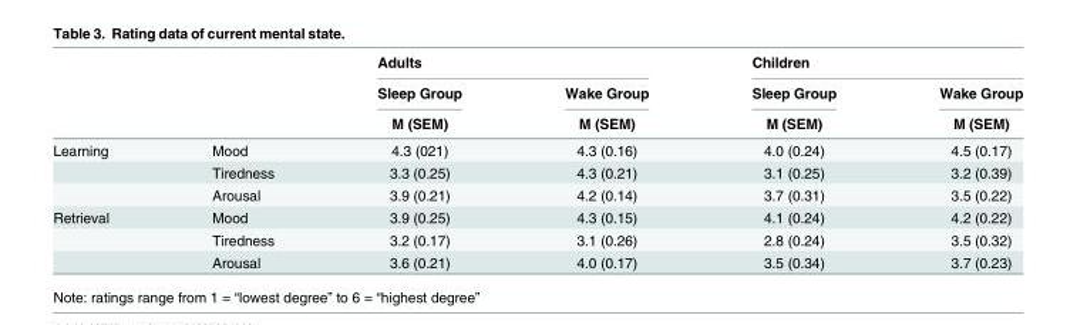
<table><thead><tr><td rowspan="3"></td><td rowspan="3"></td><td colspan="2">Adults</td><td colspan="2">Children</td></tr><tr><td rowspan="2">Sleep Group M (SEM)</td><td rowspan="2">Wake Group M (SEM)</td><td rowspan="2">Sleep Group M (SEM)</td><td rowspan="2">Wake Group M (SEM)</td></tr><tr></tr></thead><tbody><tr><td rowspan="3">Learning</td><td>Mood</td><td>4.3 (021)</td><td>4.3 (0.16)</td><td>4.0 (0.24)</td><td>4.5 (0.17)</td></tr><tr><td>Tiredness</td><td>3.3 (0.25)</td><td>4.3 (0.21)</td><td>3.1 (0.25)</td><td>3.2 (0.39)</td></tr><tr><td>Arousal</td><td>3.9 (0.21)</td><td>4.2 (0.14)</td><td>3.7 (0.31)</td><td>3.5 (0.22)</td></tr><tr><td rowspan="3">Retrieval</td><td>Mood</td><td>3.9 (0.25)</td><td>4.3 (0.15)</td><td>4.1 (0.24)</td><td>4.2 (0.22)</td></tr><tr><td>Tiredness</td><td>3.2 (0.17)</td><td>3.1 (0.26)</td><td>2.8 (0.24)</td><td>3.5 (0.32)</td></tr><tr><td>Arousal</td><td>3.6 (0.21)</td><td>4.0 (0.17)</td><td>3.5 (0.34)</td><td>3.7 (0.23)</td></tr></tbody></table>